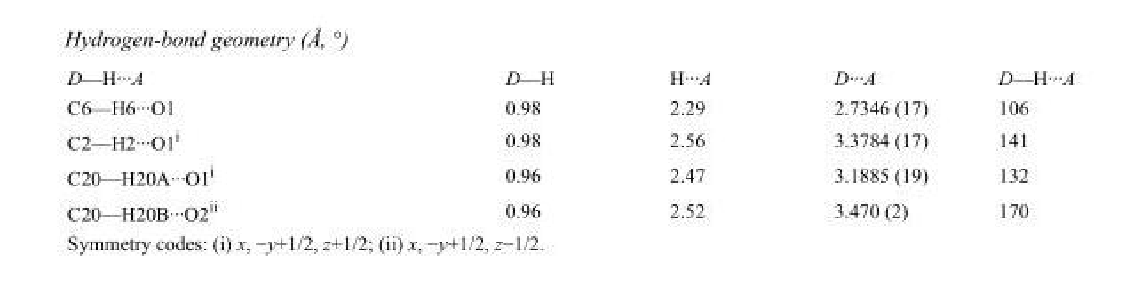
<table><tbody><tr><td>D—H···A</td><td>D—H</td><td>H···A</td><td>D···A</td><td>D—H···A</td></tr><tr><td>C6—H6···O1</td><td>0.98</td><td>2.29</td><td>2.7346 (17)</td><td>106</td></tr><tr><td>C2—H2···O1<sup>i</sup></td><td>0.98</td><td>2.56</td><td>3.3784 (17)</td><td>141</td></tr><tr><td>C20—H20A···O1<sup>i</sup></td><td>0.96</td><td>2.47</td><td>3.1885 (19)</td><td>132</td></tr><tr><td>C20—H20B···O2<sup>ii</sup></td><td>0.96</td><td>2.52</td><td>3.470 (2)</td><td>170</td></tr></tbody></table>